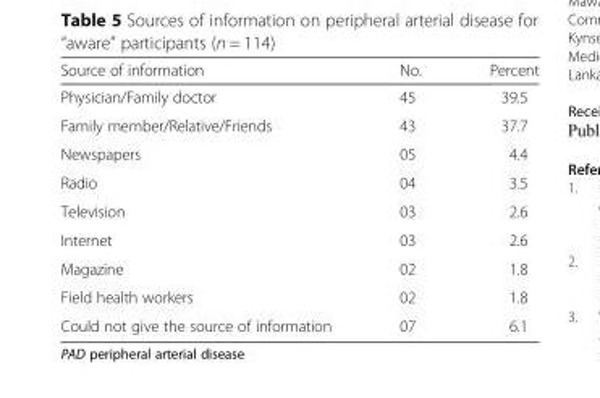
<table><thead><tr><td>Source of information</td><td>No.</td><td>Percent</td></tr></thead><tbody><tr><td>Physician/Family doctor</td><td>45</td><td>39.5</td></tr><tr><td>Family member/Relative/Friends</td><td>43</td><td>37.7</td></tr><tr><td>Newspapers</td><td>05</td><td>4.4</td></tr><tr><td>Radio</td><td>04</td><td>3.5</td></tr><tr><td>Television</td><td>03</td><td>2.6</td></tr><tr><td>Internet</td><td>03</td><td>2.6</td></tr><tr><td>Magazine</td><td>02</td><td>1.8</td></tr><tr><td>Field health workers</td><td>02</td><td>1.8</td></tr><tr><td>Could not give the source of information</td><td>07</td><td>6.1</td></tr></tbody></table>